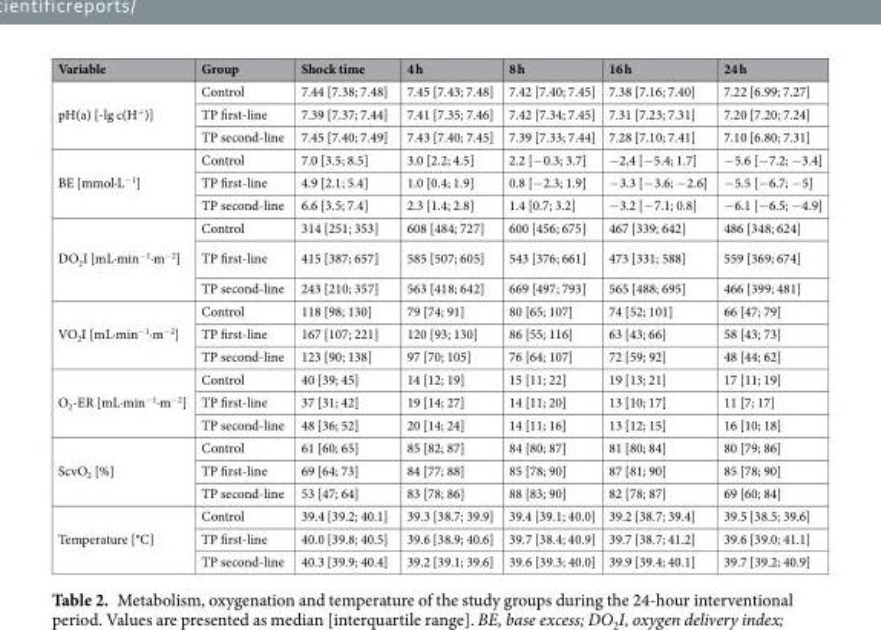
<table><thead><tr><td>Variable</td><td>Group</td><td>Shock time</td><td>4 h</td><td>8 h</td><td>16 h</td><td>24 h</td></tr></thead><tbody><tr><td rowspan="3">pH(a) [-lg c(H<sup>+</sup>)]</td><td>Control</td><td>7.44 [7.38; 7.48]</td><td>7.45 [7.43; 7.48]</td><td>7.42 [7.40; 7.45]</td><td>7.38 [7.16; 7.40]</td><td>7.22 [6.99; 7.27]</td></tr><tr><td>TP first-line</td><td>7.39 [7.37; 7.44]</td><td>7.41 [7.35; 7.46]</td><td>7.42 [7.34; 7.45]</td><td>7.31 [7.23; 7.31]</td><td>7.20 [7.20; 7.24]</td></tr><tr><td>TP second-line</td><td>7.45 [7.40; 7.49]</td><td>7.43 [7.40; 7.45]</td><td>7.39 [7.33; 7.44]</td><td>7.28 [7.10; 7.41]</td><td>7.10 [6.80; 7.31]</td></tr><tr><td rowspan="3">BE [mmol·L<sup>−1</sup>]</td><td>Control</td><td>7.0 [3.5; 8.5]</td><td>3.0 [2.2; 4.5]</td><td>2.2 [−0.3; 3.7]</td><td>−2,4 [−5.4; 1.7]</td><td>−5.6 [−7.2; −3.4]</td></tr><tr><td>TP first-line</td><td>4.9 [2.1; 5.4]</td><td>1.0 [0.4; 1.9]</td><td>0.8 [−2.3; 1.9]</td><td>−3.3 [−3.6; −2.6]</td><td>−5.5 [−6.7; −5]</td></tr><tr><td>TP second-line</td><td>6.6 [3.5; 7.4]</td><td>2.3 [1.4; 2.8]</td><td>1.4 [0.7; 3.2]</td><td>−3.2 [−7.1; 0.8]</td><td>−6.1 [−6.5; −4.9]</td></tr><tr><td rowspan="3">DO<sub>2</sub>I [mL·min<sup>−1</sup>·m<sup>−2</sup>]</td><td>Control</td><td>314 [251; 353]</td><td>608 [484; 727]</td><td>600 [456; 675]</td><td>467 [339; 642]</td><td>486 [348; 624]</td></tr><tr><td>TP first-line</td><td>415 [387; 657]</td><td>585 [507; 605]</td><td>543 [376; 661]</td><td>473 [331; 588]</td><td>559 [369; 674]</td></tr><tr><td>TP second-line</td><td>243 [210; 357]</td><td>563 [418; 642]</td><td>669 [497; 793]</td><td>565 [488; 695]</td><td>466 [399; 481]</td></tr><tr><td rowspan="3">VO<sub>2</sub>I [mL·min<sup>−1</sup>·m<sup>−2</sup>]</td><td>Control</td><td>118 [98; 130]</td><td>79 [74; 91]</td><td>80 [65; 107]</td><td>74 [52; 101]</td><td>66 [47; 79]</td></tr><tr><td>TP first-line</td><td>167 [107; 221]</td><td>120 [93; 130]</td><td>86 [55; 116]</td><td>63 [43; 66]</td><td>58 [43; 73]</td></tr><tr><td>TP second-line</td><td>123 [90; 138]</td><td>97 [70; 105]</td><td>76 [64; 107]</td><td>72 [59; 92]</td><td>48 [44; 62]</td></tr><tr><td rowspan="3">O<sub>2</sub>-ER [mL·min<sup>−1</sup>·m<sup>−2</sup>]</td><td>Control</td><td>40 [39; 45]</td><td>14 [12; 19]</td><td>15 [11; 22]</td><td>19 [13; 21]</td><td>17 [11; 19]</td></tr><tr><td>TP first-line</td><td>37 [31; 42]</td><td>19 [14; 27]</td><td>14 [11; 20]</td><td>13 [10; 17]</td><td>11 [7; 17]</td></tr><tr><td>TP second-line</td><td>48 [36; 52]</td><td>20 [14; 24]</td><td>14 [11; 16]</td><td>13 [12; 15]</td><td>16 [10; 18]</td></tr><tr><td rowspan="3">ScvO<sub>2</sub> [%]</td><td>Control</td><td>61 [60; 65]</td><td>85 [82; 87]</td><td>84 [80; 87]</td><td>81 [80; 84]</td><td>80 [79; 86]</td></tr><tr><td>TP first-line</td><td>69 [64; 73]</td><td>84 [77; 88]</td><td>85 [78; 90]</td><td>87 [81; 90]</td><td>85 [78; 90]</td></tr><tr><td>TP second-line</td><td>53 [47; 64]</td><td>83 [78; 86]</td><td>88 [83; 90]</td><td>82 [78; 87]</td><td>69 [60; 84]</td></tr><tr><td rowspan="3">Temperature [°C]</td><td>Control</td><td>39.4 [39.2; 40.1]</td><td>39.3 [38.7; 39.9]</td><td>39.4 [39.1; 40.0]</td><td>39.2 [38.7; 39.4]</td><td>39.5 [38.5; 39.6]</td></tr><tr><td>TP first-line</td><td>40.0 [39.8; 40.5]</td><td>39.6 [38.9; 40.6]</td><td>39.7 [38.4; 40.9]</td><td>39.7 [38.7; 41.2]</td><td>39.6 [39.0; 41.1]</td></tr><tr><td>TP second-line</td><td>40.3 [39.9; 40.4]</td><td>39.2 [39.1; 39.6]</td><td>39.6 [39.3; 40.0]</td><td>39.9 [39.4; 40.1]</td><td>39.7 [39.2; 40.9]</td></tr></tbody></table>